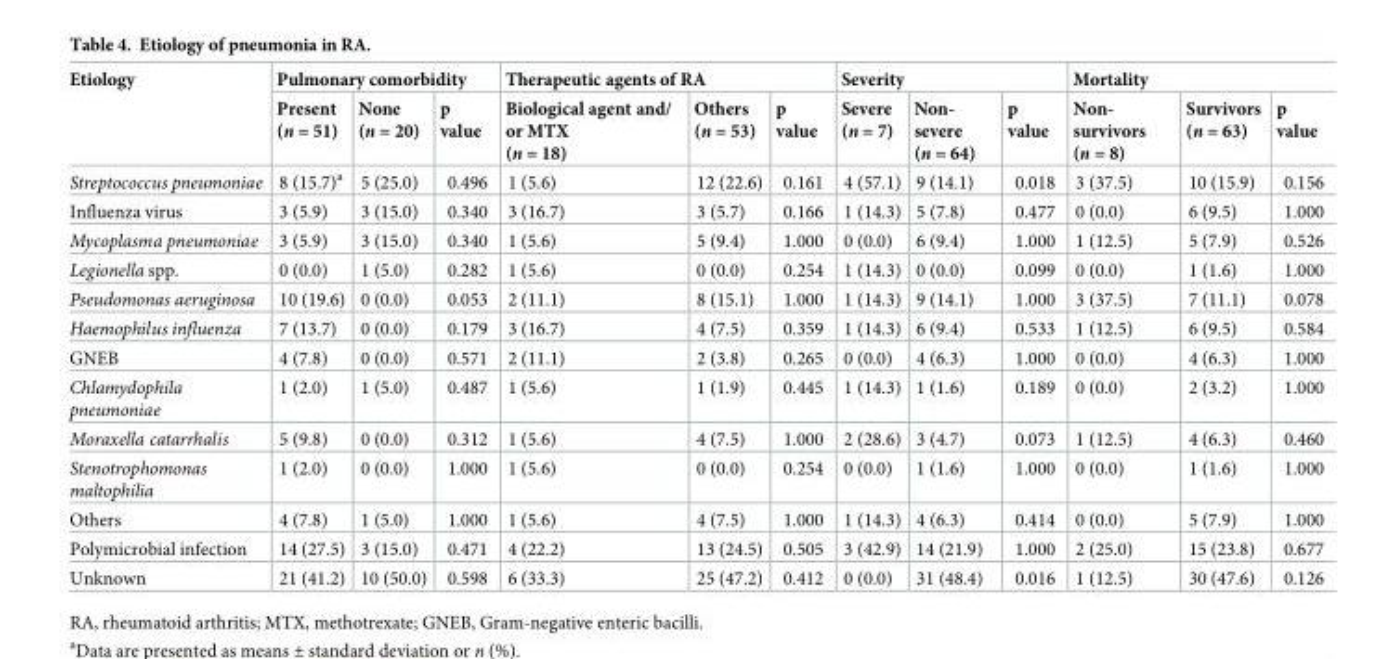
<table><thead><tr><td rowspan="2">Etiology</td><td colspan="3">Pulmonary comorbidity</td><td colspan="3">Therapeutic agents of RA</td><td colspan="3">Severity</td><td colspan="3">Mortality</td></tr><tr><td>Present (n = 51)</td><td>None (n = 20)</td><td>p value</td><td>Biological agent and/ or MTX (n = 18)</td><td>Others (n = 53)</td><td>p value</td><td>Severe (n = 7)</td><td>Non- severe (n = 64)</td><td>p value</td><td>Non- survivors (n = 8)</td><td>Survivors (n = 63)</td><td>p value</td></tr></thead><tbody><tr><td>Streptococcus pneumoniae</td><td>8 (15.7)<sup>a</sup></td><td>5 (25.0)</td><td>0.496</td><td>1 (5.6)</td><td>12 (22.6)</td><td>0.161</td><td>4 (57.1)</td><td>9 (14.1)</td><td>0.018</td><td>3 (37.5)</td><td>10 (15.9)</td><td>0.156</td></tr><tr><td>Influenza virus</td><td>3 (5.9)</td><td>3 (15.0)</td><td>0.340</td><td>3 (16.7)</td><td>3 (5.7)</td><td>0.166</td><td>1 (14.3)</td><td>5 (7.8)</td><td>0.477</td><td>0 (0.0)</td><td>6 (9.5)</td><td>1.000</td></tr><tr><td>Mycoplasma pneumoniae</td><td>3 (5.9)</td><td>3 (15.0)</td><td>0.340</td><td>1 (5.6)</td><td>5 (9.4)</td><td>1.000</td><td>0 (0.0)</td><td>6 (9.4)</td><td>1.000</td><td>1 (12.5)</td><td>5 (7.9)</td><td>0.526</td></tr><tr><td>Legionella spp.</td><td>0 (0.0)</td><td>1 (5.0)</td><td>0.282</td><td>1 (5.6)</td><td>0 (0.0)</td><td>0.254</td><td>1 (14.3)</td><td>0 (0.0)</td><td>0.099</td><td>0 (0.0)</td><td>1 (1.6)</td><td>1.000</td></tr><tr><td>Pseudomonas aeruginosa</td><td>10 (19.6)</td><td>0 (0.0)</td><td>0.053</td><td>2 (11.1)</td><td>8 (15.1)</td><td>1.000</td><td>1 (14.3)</td><td>9 (14.1)</td><td>1.000</td><td>3 (37.5)</td><td>7 (11.1)</td><td>0.078</td></tr><tr><td>Haemophilus influenza</td><td>7 (13.7)</td><td>0 (0.0)</td><td>0.179</td><td>3 (16.7)</td><td>4 (7.5)</td><td>0.359</td><td>1 (14.3)</td><td>6 (9.4)</td><td>0.533</td><td>1 (12.5)</td><td>6 (9.5)</td><td>0.584</td></tr><tr><td>GNEB</td><td>4 (7.8)</td><td>0 (0.0)</td><td>0.571</td><td>2 (11.1)</td><td>2 (3.8)</td><td>0.265</td><td>0 (0.0)</td><td>4 (6.3)</td><td>1.000</td><td>0 (0.0)</td><td>4 (6.3)</td><td>1.000</td></tr><tr><td>Chlamydophila pneumoniae</td><td>1 (2.0)</td><td>1 (5.0)</td><td>0.487</td><td>1 (5.6)</td><td>1 (1.9)</td><td>0.445</td><td>1 (14.3)</td><td>1 (1.6)</td><td>0.189</td><td>0 (0.0)</td><td>2 (3.2)</td><td>1.000</td></tr><tr><td>Moraxella catarrhalis</td><td>5 (9.8)</td><td>0 (0.0)</td><td>0.312</td><td>1 (5.6)</td><td>4 (7.5)</td><td>1.000</td><td>2 (28.6)</td><td>3 (4.7)</td><td>0.073</td><td>1 (12.5)</td><td>4 (6.3)</td><td>0.460</td></tr><tr><td>Stenotrophomonas maltophilia</td><td>1 (2.0)</td><td>0 (0.0)</td><td>1.000</td><td>1 (5.6)</td><td>0 (0.0)</td><td>0.254</td><td>0 (0.0)</td><td>1 (1.6)</td><td>1.000</td><td>0 (0.0)</td><td>1 (1.6)</td><td>1.000</td></tr><tr><td>Others</td><td>4 (7.8)</td><td>1 (5.0)</td><td>1.000</td><td>1 (5.6)</td><td>4 (7.5)</td><td>1.000</td><td>1 (14.3)</td><td>4 (6.3)</td><td>0.414</td><td>0 (0.0)</td><td>5 (7.9)</td><td>1.000</td></tr><tr><td>Polymicrobial infection</td><td>14 (27.5)</td><td>3 (15.0)</td><td>0.471</td><td>4 (22.2)</td><td>13 (24.5)</td><td>0.505</td><td>3 (42.9)</td><td>14 (21.9)</td><td>1.000</td><td>2 (25.0)</td><td>15 (23.8)</td><td>0.677</td></tr><tr><td>Unknown</td><td>21 (41.2)</td><td>10 (50.0)</td><td>0.598</td><td>6 (33.3)</td><td>25 (47.2)</td><td>0.412</td><td>0 (0.0)</td><td>31 (48.4)</td><td>0.016</td><td>1 (12.5)</td><td>30 (47.6)</td><td>0.126</td></tr></tbody></table>